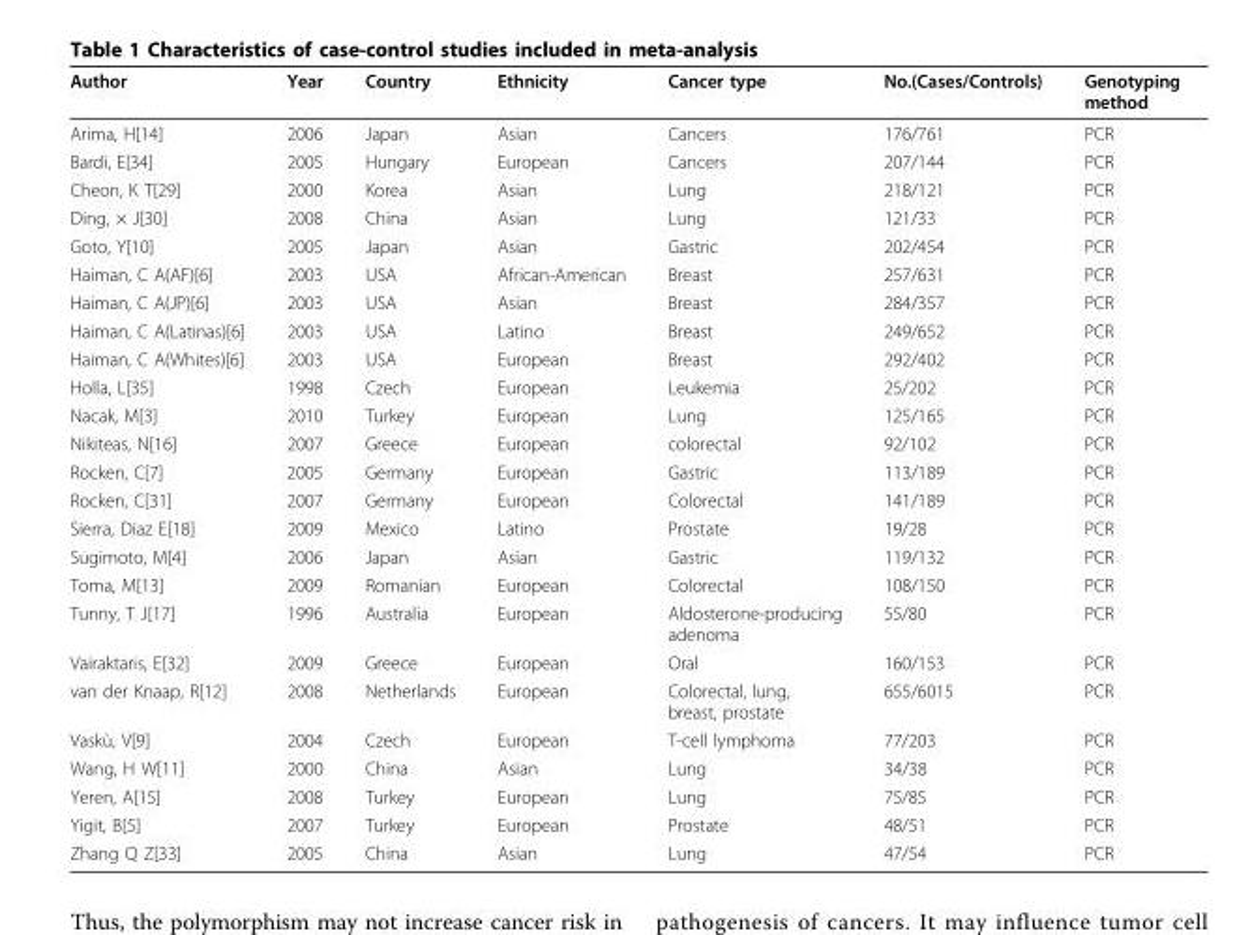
<table><thead><tr><td>Author</td><td>Year</td><td>Country</td><td>Ethnicity</td><td>Cancer type</td><td>No.(Cases/Controls)</td><td>Genotyping method</td></tr></thead><tbody><tr><td>Arima, H[14]</td><td>2006</td><td>Japan</td><td>Asian</td><td>Cancers</td><td>176/761</td><td>PCR</td></tr><tr><td>Bardi, E[34]</td><td>2005</td><td>Hungary</td><td>European</td><td>Cancers</td><td>207/144</td><td>PCR</td></tr><tr><td>Cheon, K T[29]</td><td>2000</td><td>Korea</td><td>Asian</td><td>Lung</td><td>218/121</td><td>PCR</td></tr><tr><td>Ding, × J[30]</td><td>2008</td><td>China</td><td>Asian</td><td>Lung</td><td>121/33</td><td>PCR</td></tr><tr><td>Goto, Y[10]</td><td>2005</td><td>Japan</td><td>Asian</td><td>Gastric</td><td>202/454</td><td>PCR</td></tr><tr><td>Haiman, C A(AF)[6]</td><td>2003</td><td>USA</td><td>African-American</td><td>Breast</td><td>257/631</td><td>PCR</td></tr><tr><td>Haiman, C A(JP)[6]</td><td>2003</td><td>USA</td><td>Asian</td><td>Breast</td><td>284/357</td><td>PCR</td></tr><tr><td>Haiman, C A(Latinas)[6]</td><td>2003</td><td>USA</td><td>Latino</td><td>Breast</td><td>249/652</td><td>PCR</td></tr><tr><td>Haiman, C A(Whites)[6]</td><td>2003</td><td>USA</td><td>European</td><td>Breast</td><td>292/402</td><td>PCR</td></tr><tr><td>Holla, L[35]</td><td>1998</td><td>Czech</td><td>European</td><td>Leukemia</td><td>25/202</td><td>PCR</td></tr><tr><td>Nacak, M[3]</td><td>2010</td><td>Turkey</td><td>European</td><td>Lung</td><td>125/165</td><td>PCR</td></tr><tr><td>Nikiteas, N[16]</td><td>2007</td><td>Greece</td><td>European</td><td>colorectal</td><td>92/102</td><td>PCR</td></tr><tr><td>Rocken, C[7]</td><td>2005</td><td>Germany</td><td>European</td><td>Gastric</td><td>113/189</td><td>PCR</td></tr><tr><td>Rocken, C[31]</td><td>2007</td><td>Germany</td><td>European</td><td>Colorectal</td><td>141/189</td><td>PCR</td></tr><tr><td>Sierra, Diaz E[18]</td><td>2009</td><td>Mexico</td><td>Latino</td><td>Prostate</td><td>19/28</td><td>PCR</td></tr><tr><td>Sugimoto, M[4]</td><td>2006</td><td>Japan</td><td>Asian</td><td>Gastric</td><td>119/132</td><td>PCR</td></tr><tr><td>Toma, M[13]</td><td>2009</td><td>Romanian</td><td>European</td><td>Colorectal</td><td>108/150</td><td>PCR</td></tr><tr><td>Tunny, T J[17]</td><td>1996</td><td>Australia</td><td>European</td><td>Aldosterone-producing adenoma</td><td>55/80</td><td>PCR</td></tr><tr><td>Vairaktaris, E[32]</td><td>2009</td><td>Greece</td><td>European</td><td>Oral</td><td>160/153</td><td>PCR</td></tr><tr><td>van der Knaap, R[12]</td><td>2008</td><td>Netherlands</td><td>European</td><td>Colorectal, lung, breast, prostate</td><td>655/6015</td><td>PCR</td></tr><tr><td>Vaskù, V[9]</td><td>2004</td><td>Czech</td><td>European</td><td>T-cell lymphoma</td><td>77/203</td><td>PCR</td></tr><tr><td>Wang, H W[11]</td><td>2000</td><td>China</td><td>Asian</td><td>Lung</td><td>34/38</td><td>PCR</td></tr><tr><td>Yeren, A[15]</td><td>2008</td><td>Turkey</td><td>European</td><td>Lung</td><td>75/85</td><td>PCR</td></tr><tr><td>Yigit, B[5]</td><td>2007</td><td>Turkey</td><td>European</td><td>Prostate</td><td>48/51</td><td>PCR</td></tr><tr><td>Zhang Q Z[33]</td><td>2005</td><td>China</td><td>Asian</td><td>Lung</td><td>47/54</td><td>PCR</td></tr></tbody></table>